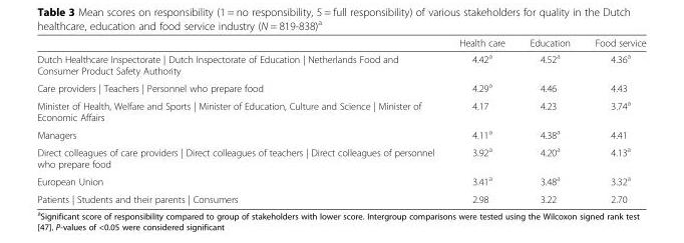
<table><thead><tr><td></td><td>Health care</td><td>Education</td><td>Food service</td></tr></thead><tbody><tr><td>Dutch Healthcare Inspectorate | Dutch Inspectorate of Education | Netherlands Food and Consumer Product Safety Authority</td><td>4.42<sup>a</sup></td><td>4.52<sup>a</sup></td><td>4.36<sup>a</sup></td></tr><tr><td>Care providers | Teachers | Personnel who prepare food</td><td>4.29<sup>a</sup></td><td>4.46</td><td>4.43</td></tr><tr><td>Minister of Health, Welfare and Sports | Minister of Education, Culture and Science | Minister of Economic Affairs</td><td>4.17</td><td>4.23</td><td>3.74<sup>a</sup></td></tr><tr><td>Managers</td><td>4.11<sup>a</sup></td><td>4.38<sup>a</sup></td><td>4.41</td></tr><tr><td>Direct colleagues of care providers | Direct colleagues of teachers | Direct colleagues of personnel who prepare food</td><td>3.92<sup>a</sup></td><td>4.20<sup>a</sup></td><td>4.13<sup>a</sup></td></tr><tr><td>European Union</td><td>3.41<sup>a</sup></td><td>3.48<sup>a</sup></td><td>3.32<sup>a</sup></td></tr><tr><td>Patients | Students and their parents | Consumers</td><td>2.98</td><td>3.22</td><td>2.70</td></tr></tbody></table>